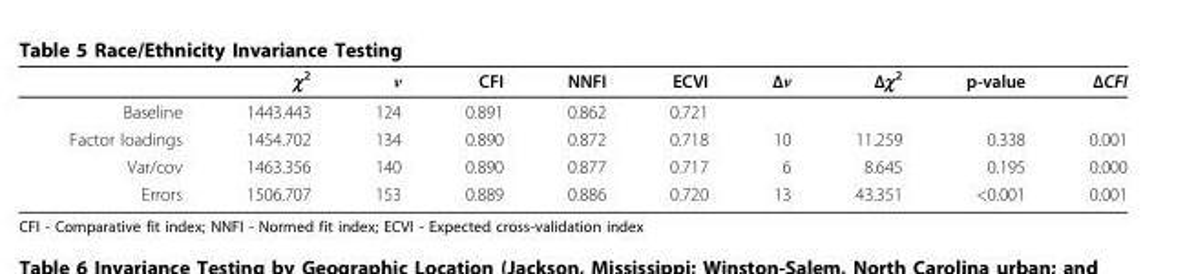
<table><thead><tr><td></td><td>χ<sup>2</sup></td><td>ν</td><td>CFI</td><td>NNFI</td><td>ECVI</td><td>Δν</td><td>Δχ<sup>2</sup></td><td>p-value</td><td>ΔCFI</td></tr></thead><tbody><tr><td>Baseline</td><td>1443.443</td><td>124</td><td>0.891</td><td>0.862</td><td>0.721</td><td></td><td></td><td></td><td></td></tr><tr><td>Factor loadings</td><td>1454.702</td><td>134</td><td>0.890</td><td>0.872</td><td>0.718</td><td>10</td><td>11.259</td><td>0.338</td><td>0.001</td></tr><tr><td>Var/cov</td><td>1463.356</td><td>140</td><td>0.890</td><td>0.877</td><td>0.717</td><td>6</td><td>8.645</td><td>0.195</td><td>0.000</td></tr><tr><td>Errors</td><td>1506.707</td><td>153</td><td>0.889</td><td>0.886</td><td>0.720</td><td>13</td><td>43.351</td><td>&lt;0.001</td><td>0.001</td></tr></tbody></table>